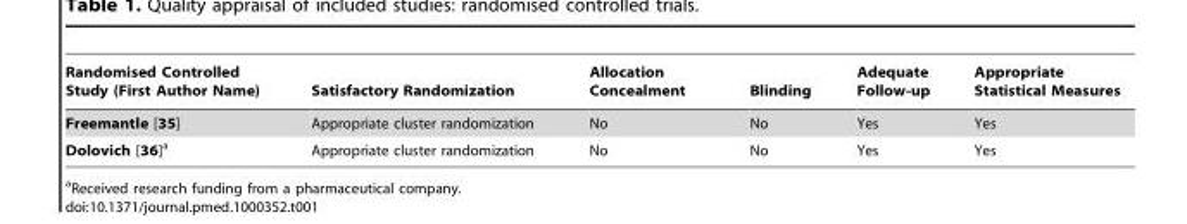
<table><thead><tr><td>Randomised Controlled Study (First Author Name)</td><td>Satisfactory Randomization</td><td>Allocation Concealment</td><td>Blinding</td><td>Adequate Follow-up</td><td>Appropriate Statistical Measures</td></tr></thead><tbody><tr><td>Freemantle [35]</td><td>Appropriate cluster randomization</td><td>No</td><td>No</td><td>Yes</td><td>Yes</td></tr><tr><td>Dolovich [36]a</td><td>Appropriate cluster randomization</td><td>No</td><td>No</td><td>Yes</td><td>Yes</td></tr></tbody></table>